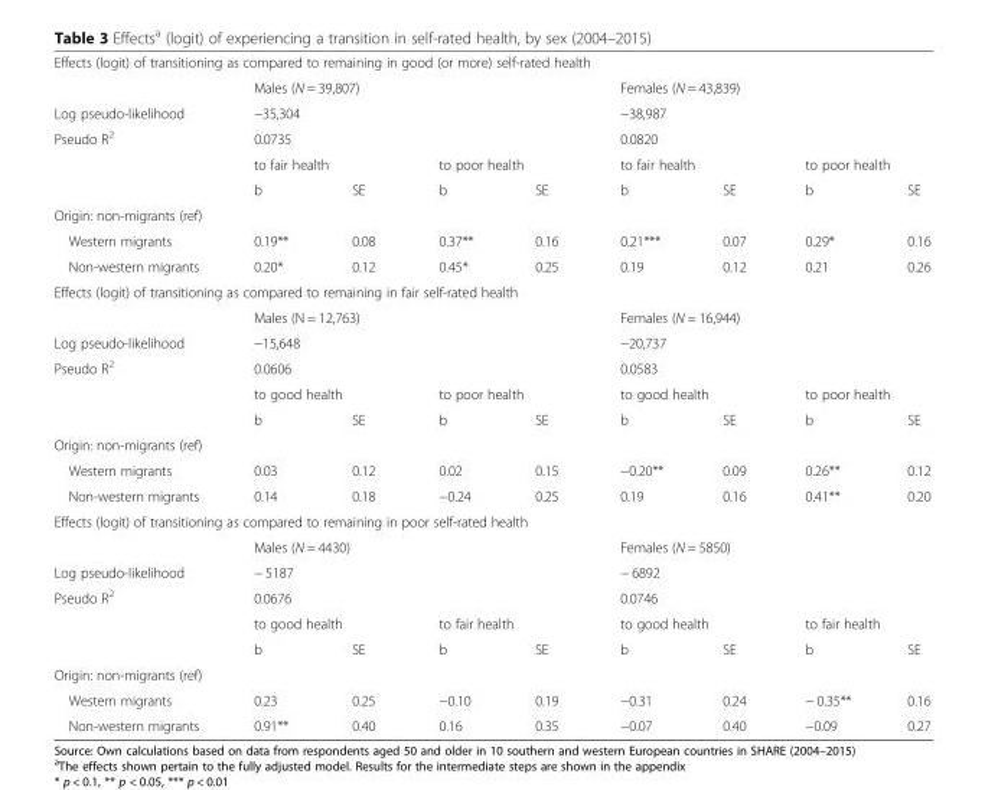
<table><tbody><tr><td colspan="9">Effects (logit) of transitioning as compared to remaining in good (or more) self-rated health</td></tr><tr><td></td><td colspan="4">Males (N = 39,807)</td><td colspan="4">Females (N = 43,839)</td></tr><tr><td>Log pseudo-likelihood</td><td colspan="4">−35,304</td><td colspan="4">−38,987</td></tr><tr><td rowspan="3">Pseudo R<sup>2</sup></td><td colspan="4">0.0735</td><td colspan="4">0.0820</td></tr><tr><td colspan="2">to fair health</td><td colspan="2">to poor health</td><td colspan="2">to fair health</td><td colspan="2">to poor health</td></tr><tr><td>b</td><td>SE</td><td>b</td><td>SE</td><td>b</td><td>SE</td><td>b</td><td>SE</td></tr><tr><td colspan="9">Origin: non-migrants (ref)</td></tr><tr><td>Western migrants</td><td>0.19**</td><td>0.08</td><td>0.37**</td><td>0.16</td><td>0.21***</td><td>0.07</td><td>0.29*</td><td>0.16</td></tr><tr><td>Non-western migrants</td><td>0.20*</td><td>0.12</td><td>0.45*</td><td>0.25</td><td>0.19</td><td>0.12</td><td>0.21</td><td>0.26</td></tr><tr><td colspan="9">Effects (logit) of transitioning as compared to remaining in fair self-rated health</td></tr><tr><td></td><td colspan="4">Males (N = 12,763)</td><td colspan="4">Females (N = 16,944)</td></tr><tr><td>Log pseudo-likelihood</td><td colspan="4">−15,648</td><td colspan="4">−20,737</td></tr><tr><td rowspan="3">Pseudo R<sup>2</sup></td><td colspan="4">0.0606</td><td colspan="4">0.0583</td></tr><tr><td colspan="2">to good health</td><td colspan="2">to poor health</td><td colspan="2">to good health</td><td colspan="2">to poor health</td></tr><tr><td>b</td><td>SE</td><td>b</td><td>SE</td><td>b</td><td>SE</td><td>b</td><td>SE</td></tr><tr><td colspan="9">Origin: non-migrants (ref)</td></tr><tr><td>Western migrants</td><td>0.03</td><td>0.12</td><td>0.02</td><td>0.15</td><td>−0.20**</td><td>0.09</td><td>0.26**</td><td>0.12</td></tr><tr><td>Non-western migrants</td><td>0.14</td><td>0.18</td><td>−0.24</td><td>0.25</td><td>0.19</td><td>0.16</td><td>0.41**</td><td>0.20</td></tr><tr><td colspan="9">Effects (logit) of transitioning as compared to remaining in poor self-rated health</td></tr><tr><td></td><td colspan="4">Males (N = 4430)</td><td colspan="4">Females (N = 5850)</td></tr><tr><td>Log pseudo-likelihood</td><td colspan="4">− 5187</td><td colspan="4">− 6892</td></tr><tr><td rowspan="3">Pseudo R<sup>2</sup></td><td colspan="4">0.0676</td><td colspan="4">0.0746</td></tr><tr><td colspan="2">to good health</td><td colspan="2">to fair health</td><td colspan="2">to good health</td><td colspan="2">to fair health</td></tr><tr><td>b</td><td>SE</td><td>b</td><td>SE</td><td>b</td><td>SE</td><td>b</td><td>SE</td></tr><tr><td colspan="9">Origin: non-migrants (ref)</td></tr><tr><td>Western migrants</td><td>0.23</td><td>0.25</td><td>−0.10</td><td>0.19</td><td>−0.31</td><td>0.24</td><td>− 0.35**</td><td>0.16</td></tr><tr><td>Non-western migrants</td><td>0.91**</td><td>0.40</td><td>0.16</td><td>0.35</td><td>−0.07</td><td>0.40</td><td>−0.09</td><td>0.27</td></tr></tbody></table>